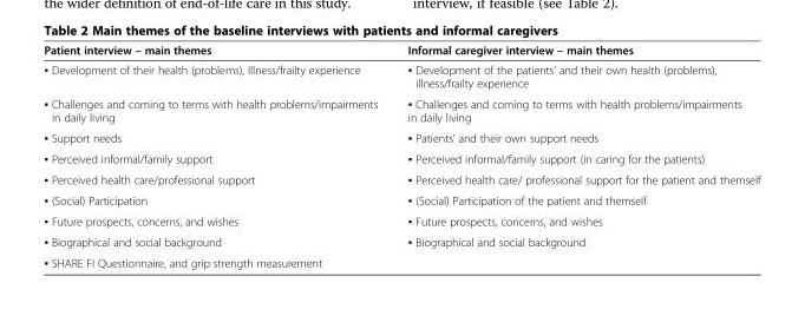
<table><thead><tr><td>Patient interview – main themes</td><td>Informal caregiver interview – main themes</td></tr></thead><tbody><tr><td>▪ Development of their health (problems), Illness/frailty experience</td><td>▪ Development of the patients’ and their own health (problems), illness/frailty experience</td></tr><tr><td>▪ Challenges and coming to terms with health problems/impairments in daily living</td><td>▪ Challenges and coming to terms with health problems/impairments in daily living</td></tr><tr><td>▪ Support needs</td><td>▪ Patients’ and their own support needs</td></tr><tr><td>▪ Perceived informal/family support</td><td>▪ Perceived informal/family support (in caring for the patients)</td></tr><tr><td>▪ Perceived health care/professional support</td><td>▪ Perceived health care/ professional support for the patient and themself</td></tr><tr><td>▪ (Social) Participation</td><td>▪ (Social) Participation of the patient and themself</td></tr><tr><td>▪ Future prospects, concerns, and wishes</td><td>▪ Future prospects, concerns, and wishes</td></tr><tr><td>▪ Biographical and social background</td><td>▪ Biographical and social background</td></tr><tr><td>▪ SHARE FI Questionnaire, and grip strength measurement</td><td></td></tr></tbody></table>